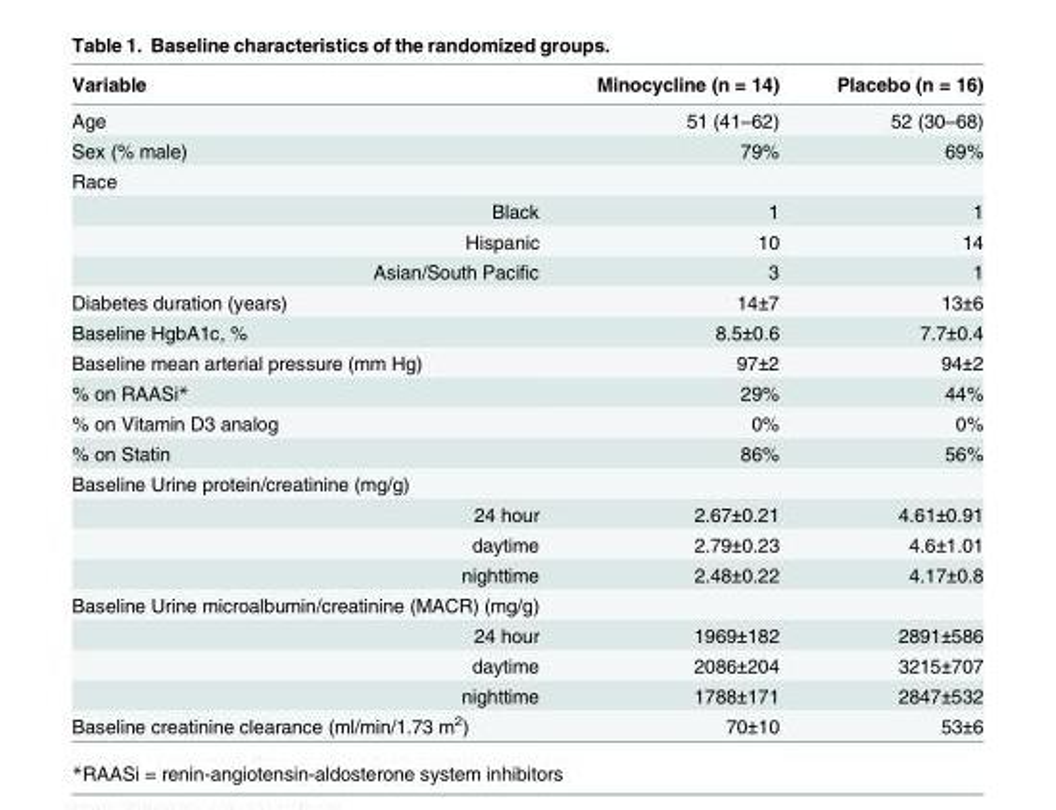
<table><thead><tr><td>Variable</td><td>Minocycline (n = 14)</td><td>Placebo (n = 16)</td></tr></thead><tbody><tr><td>Age</td><td>51 (41–62)</td><td>52 (30–68)</td></tr><tr><td>Sex (% male)</td><td>79%</td><td>69%</td></tr><tr><td colspan="3">Race</td></tr><tr><td>Black</td><td>1</td><td>1</td></tr><tr><td>Hispanic</td><td>10</td><td>14</td></tr><tr><td>Asian/South Pacific</td><td>3</td><td>1</td></tr><tr><td>Diabetes duration (years)</td><td>14±7</td><td>13±6</td></tr><tr><td>Baseline HgbA1c, %</td><td>8.5±0.6</td><td>7.7±0.4</td></tr><tr><td>Baseline mean arterial pressure (mm Hg)</td><td>97±2</td><td>94±2</td></tr><tr><td>% on RAASi*</td><td>29%</td><td>44%</td></tr><tr><td>% on Vitamin D3 analog</td><td>0%</td><td>0%</td></tr><tr><td>% on Statin</td><td>86%</td><td>56%</td></tr><tr><td colspan="3">Baseline Urine protein/creatinine (mg/g)</td></tr><tr><td>24 hour</td><td>2.67±0.21</td><td>4.61±0.91</td></tr><tr><td>daytime</td><td>2.79±0.23</td><td>4.6±1.01</td></tr><tr><td>nighttime</td><td>2.48±0.22</td><td>4.17±0.8</td></tr><tr><td colspan="3">Baseline Urine microalbumin/creatinine (MACR) (mg/g)</td></tr><tr><td>24 hour</td><td>1969±182</td><td>2891±586</td></tr><tr><td>daytime</td><td>2086±204</td><td>3215±707</td></tr><tr><td>nighttime</td><td>1788±171</td><td>2847±532</td></tr><tr><td>Baseline creatinine clearance (ml/min/1.73 m<sup>2</sup>)</td><td>70±10</td><td>53±6</td></tr></tbody></table>